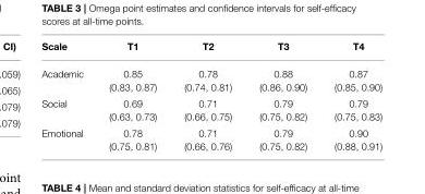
<table><thead><tr><td>Scale</td><td>T1</td><td>T2</td><td>T3</td><td>T4</td></tr></thead><tbody><tr><td>Academic</td><td>0.85 (0.83, 0.87)</td><td>0.78 (0.74, 0.81)</td><td>0.88 (0.86, 0.90)</td><td>0.87 (0.85, 0.90)</td></tr><tr><td>Social</td><td>0.69 (0.63, 0.73)</td><td>0.71 (0.66, 0.75)</td><td>0.79 (0.75, 0.82)</td><td>0.79 (0.75, 0.83)</td></tr><tr><td>Emotional</td><td>0.78 (0.75, 0.81)</td><td>0.71 (0.66, 0.76)</td><td>0.79 (0.75, 0.82)</td><td>0.90 (0.88, 0.91)</td></tr></tbody></table>